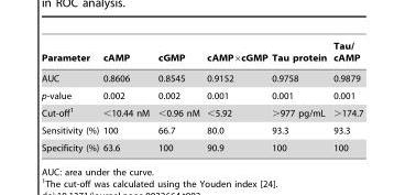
<table><thead><tr><td>Parameter</td><td>cAMP</td><td>cGMP</td><td>cAMP×cGMP</td><td>Tau protein</td><td>Tau/ cAMP</td></tr></thead><tbody><tr><td>AUC</td><td>0.8606</td><td>0.8545</td><td>0.9152</td><td>0.9758</td><td>0.9879</td></tr><tr><td>p-value</td><td>0.002</td><td>0.002</td><td>0.001</td><td>0.001</td><td>0.001</td></tr><tr><td>Cut-off<sup>1</sup></td><td>&lt;10.44 nM</td><td>&lt;0.96 nM</td><td>&lt;5.92</td><td>&gt;977 pg/mL</td><td>&gt;174.7</td></tr><tr><td>Sensitivity (%)</td><td>100</td><td>66.7</td><td>80.0</td><td>93.3</td><td>93.3</td></tr><tr><td>Specificity (%)</td><td>63.6</td><td>100</td><td>90.9</td><td>100</td><td>100</td></tr></tbody></table>